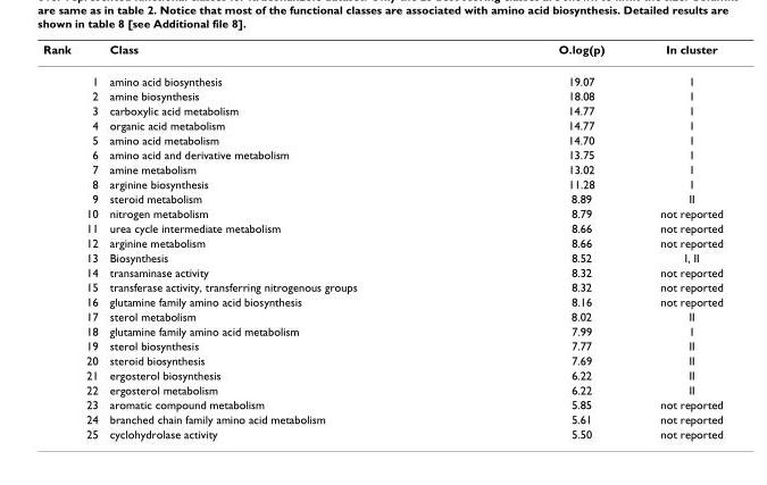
<table><thead><tr><td>Rank</td><td>Class</td><td>O.log(p)</td><td>In cluster</td></tr></thead><tbody><tr><td>1</td><td>amino acid biosynthesis</td><td>19.07</td><td>I</td></tr><tr><td>2</td><td>amine biosynthesis</td><td>18.08</td><td>I</td></tr><tr><td>3</td><td>carboxylic acid metabolism</td><td>14.77</td><td>I</td></tr><tr><td>4</td><td>organic acid metabolism</td><td>14.77</td><td>I</td></tr><tr><td>5</td><td>amino acid metabolism</td><td>14.70</td><td>I</td></tr><tr><td>6</td><td>amino acid and derivative metabolism</td><td>13.75</td><td>I</td></tr><tr><td>7</td><td>amine metabolism</td><td>13.02</td><td>I</td></tr><tr><td>8</td><td>arginine biosynthesis</td><td>11.28</td><td>I</td></tr><tr><td>9</td><td>steroid metabolism</td><td>8.89</td><td>II</td></tr><tr><td>10</td><td>nitrogen metabolism</td><td>8.79</td><td>not reported</td></tr><tr><td>11</td><td>urea cycle intermediate metabolism</td><td>8.66</td><td>not reported</td></tr><tr><td>12</td><td>arginine metabolism</td><td>8.66</td><td>not reported</td></tr><tr><td>13</td><td>Biosynthesis</td><td>8.52</td><td>I, II</td></tr><tr><td>14</td><td>transaminase activity</td><td>8.32</td><td>not reported</td></tr><tr><td>15</td><td>transferase activity, transferring nitrogenous groups</td><td>8.32</td><td>not reported</td></tr><tr><td>16</td><td>glutamine family amino acid biosynthesis</td><td>8.16</td><td>not reported</td></tr><tr><td>17</td><td>sterol metabolism</td><td>8.02</td><td>II</td></tr><tr><td>18</td><td>glutamine family amino acid metabolism</td><td>7.99</td><td>I</td></tr><tr><td>19</td><td>sterol biosynthesis</td><td>7.77</td><td>II</td></tr><tr><td>20</td><td>steroid biosynthesis</td><td>7.69</td><td>II</td></tr><tr><td>21</td><td>ergosterol biosynthesis</td><td>6.22</td><td>II</td></tr><tr><td>22</td><td>ergosterol metabolism</td><td>6.22</td><td>II</td></tr><tr><td>23</td><td>aromatic compound metabolism</td><td>5.85</td><td>not reported</td></tr><tr><td>24</td><td>branched chain family amino acid metabolism</td><td>5.61</td><td>not reported</td></tr><tr><td>25</td><td>cyclohydrolase activity</td><td>5.50</td><td>not reported</td></tr></tbody></table>